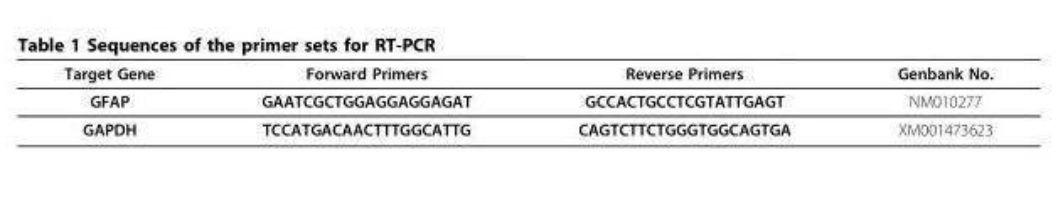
<table><thead><tr><td>Target Gene</td><td>Forward Primers</td><td>Reverse Primers</td><td>Genbank No.</td></tr></thead><tbody><tr><td>GFAP</td><td>GAATCGCTGGAGGAGGAGAT</td><td>GCCACTGCCTCGTATTGAGT</td><td>NM010277</td></tr><tr><td>GAPDH</td><td>TCCATGACAACTTTGGCATTG</td><td>CAGTCTTCTGGGTGGCAGTGA</td><td>XM001473623</td></tr></tbody></table>